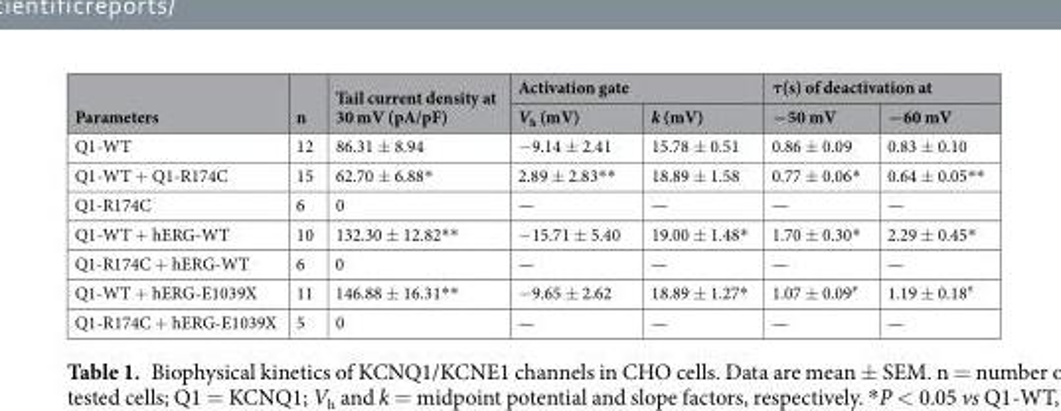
<table><thead><tr><td rowspan="2">Parameters</td><td rowspan="2">n</td><td rowspan="2">Tail current density at 30 mV (pA/pF)</td><td colspan="2">Activation gate</td><td colspan="2">τ(s) of deactivation at</td></tr><tr><td>V<sub>h</sub> (mV)</td><td>k (mV)</td><td>−50 mV</td><td>−60 mV</td></tr></thead><tbody><tr><td>Q1-WT</td><td>12</td><td>86.31 ± 8.94</td><td>−9.14 ± 2.41</td><td>15.78 ± 0.51</td><td>0.86 ± 0.09</td><td>0.83 ± 0.10</td></tr><tr><td>Q1-WT + Q1-R174C</td><td>15</td><td>62.70 ± 6.88*</td><td>2.89 ± 2.83**</td><td>18.89 ± 1.58</td><td>0.77 ± 0.06*</td><td>0.64 ± 0.05**</td></tr><tr><td>Q1-R174C</td><td>6</td><td>0</td><td>—</td><td>—</td><td>—</td><td>—</td></tr><tr><td>Q1-WT + hERG-WT</td><td>10</td><td>132.30 ± 12.82**</td><td>−15.71 ± 5.40</td><td>19.00 ± 1.48*</td><td>1.70 ± 0.30*</td><td>2.29 ± 0.45*</td></tr><tr><td>Q1-R174C + hERG-WT</td><td>6</td><td>0</td><td>—</td><td>—</td><td>—</td><td>—</td></tr><tr><td>Q1-WT + hERG-E1039X</td><td>11</td><td>146.88 ± 16.31**</td><td>−9.65 ± 2.62</td><td>18.89 ± 1.27*</td><td>1.07 ± 0.09<sup>#</sup></td><td>1.19 ± 0.18<sup>#</sup></td></tr><tr><td>Q1-R174C + hERG-E1039X</td><td>5</td><td>0</td><td>—</td><td>—</td><td>—</td><td>—</td></tr></tbody></table>